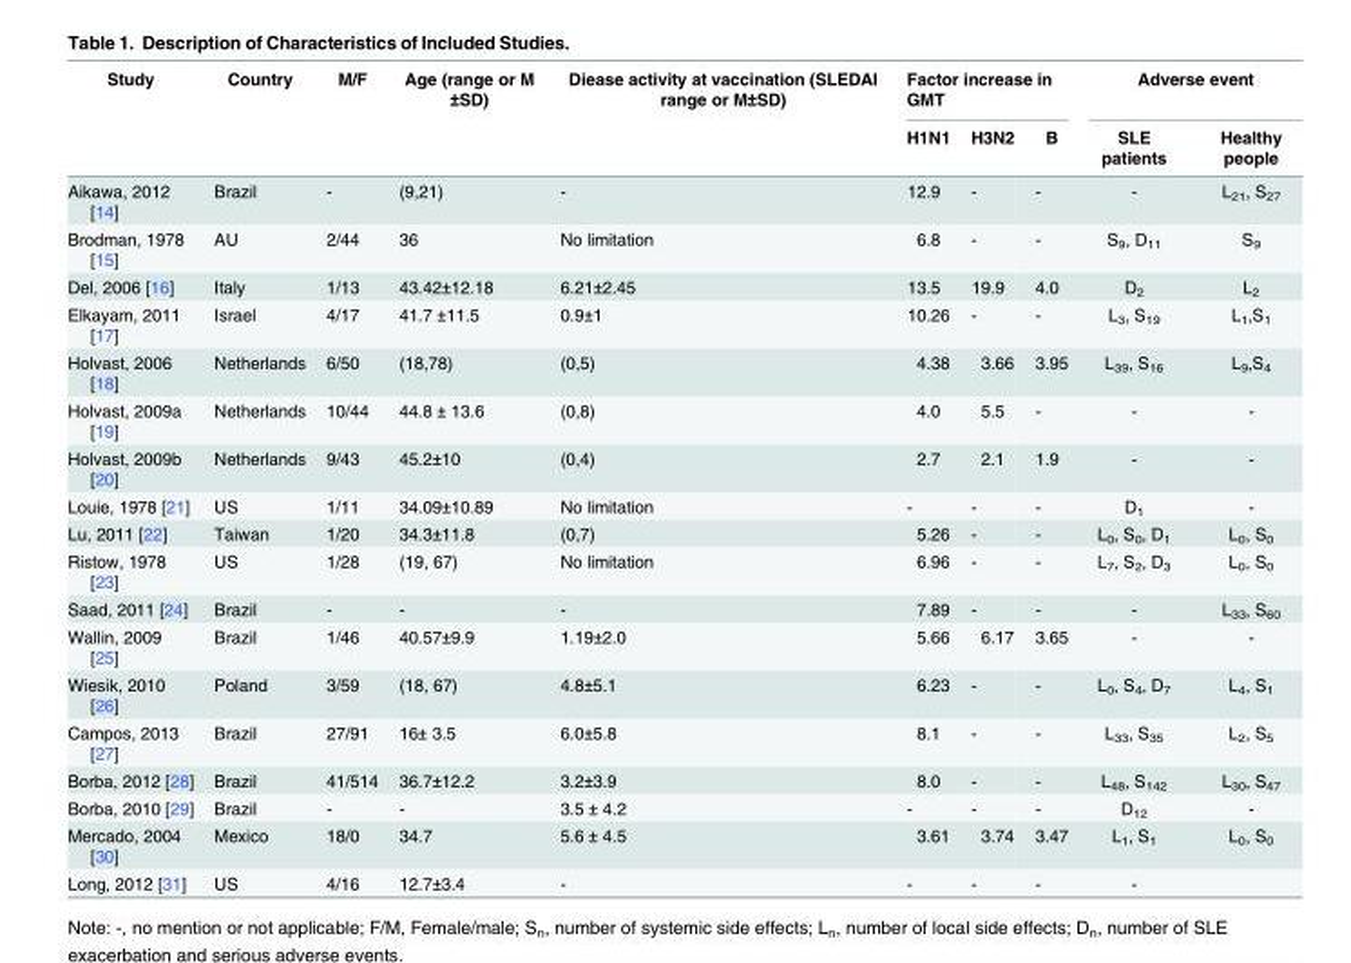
<table><thead><tr><td rowspan="2">Study</td><td rowspan="2">Country</td><td rowspan="2">M/F</td><td rowspan="2">Age (range or M ±SD)</td><td rowspan="2">Diease activity at vaccination (SLEDAI range or M±SD)</td><td colspan="3">Factor increase in GMT</td><td colspan="2">Adverse event</td></tr><tr><td>H1N1</td><td>H3N2</td><td>B</td><td>SLE patients</td><td>Healthy people</td></tr></thead><tbody><tr><td>Aikawa, 2012 [14]</td><td>Brazil</td><td>-</td><td>(9,21)</td><td>-</td><td>12.9</td><td>-</td><td>-</td><td>-</td><td>L<sub>21</sub>, S<sub>27</sub></td></tr><tr><td>Brodman, 1978 [15]</td><td>AU</td><td>2/44</td><td>36</td><td>No limitation</td><td>6.8</td><td>-</td><td>-</td><td>S<sub>9</sub>, D<sub>11</sub></td><td>S<sub>9</sub></td></tr><tr><td>Del, 2006 [16]</td><td>Italy</td><td>1/13</td><td>43.42±12.18</td><td>6.21±2.45</td><td>13.5</td><td>19.9</td><td>4.0</td><td>D<sub>2</sub></td><td>L<sub>2</sub></td></tr><tr><td>Elkayam, 2011 [17]</td><td>Israel</td><td>4/17</td><td>41.7 ±11.5</td><td>0.9±1</td><td>10.26</td><td>-</td><td>-</td><td>L<sub>3</sub>, S<sub>19</sub></td><td>L<sub>1</sub>,S<sub>1</sub></td></tr><tr><td>Holvast, 2006 [18]</td><td>Netherlands</td><td>6/50</td><td>(18,78)</td><td>(0,5)</td><td>4.38</td><td>3.66</td><td>3.95</td><td>L<sub>39</sub>, S<sub>16</sub></td><td>L<sub>9</sub>,S<sub>4</sub></td></tr><tr><td>Holvast, 2009a [19]</td><td>Netherlands</td><td>10/44</td><td>44.8 ± 13.6</td><td>(0,8)</td><td>4.0</td><td>5.5</td><td>-</td><td>-</td><td>-</td></tr><tr><td>Holvast, 2009b [20]</td><td>Netherlands</td><td>9/43</td><td>45.2±10</td><td>(0,4)</td><td>2.7</td><td>2.1</td><td>1.9</td><td>-</td><td>-</td></tr><tr><td>Louie, 1978 [21]</td><td>US</td><td>1/11</td><td>34.09±10.89</td><td>No limitation</td><td>-</td><td>-</td><td>-</td><td>D<sub>1</sub></td><td>-</td></tr><tr><td>Lu, 2011 [22]</td><td>Taiwan</td><td>1/20</td><td>34.3±11.8</td><td>(0,7)</td><td>5.26</td><td>-</td><td>-</td><td>L<sub>0</sub>, S<sub>0</sub>, D<sub>1</sub></td><td>L<sub>0</sub>, S<sub>0</sub></td></tr><tr><td>Ristow, 1978 [23]</td><td>US</td><td>1/28</td><td>(19, 67)</td><td>No limitation</td><td>6.96</td><td>-</td><td>-</td><td>L<sub>7</sub>, S<sub>2</sub>, D<sub>3</sub></td><td>L<sub>0</sub>, S<sub>0</sub></td></tr><tr><td>Saad, 2011 [24]</td><td>Brazil</td><td>-</td><td>-</td><td>-</td><td>7.89</td><td>-</td><td>-</td><td>-</td><td>L<sub>33</sub>, S<sub>60</sub></td></tr><tr><td>Wallin, 2009 [25]</td><td>Brazil</td><td>1/46</td><td>40.57±9.9</td><td>1.19±2.0</td><td>5.66</td><td>6.17</td><td>3.65</td><td>-</td><td>-</td></tr><tr><td>Wiesik, 2010 [26]</td><td>Poland</td><td>3/59</td><td>(18, 67)</td><td>4.8±5.1</td><td>6.23</td><td>-</td><td>-</td><td>L<sub>0</sub>, S<sub>4</sub>, D<sub>7</sub></td><td>L<sub>4</sub>, S<sub>1</sub></td></tr><tr><td>Campos, 2013 [27]</td><td>Brazil</td><td>27/91</td><td>16± 3.5</td><td>6.0±5.8</td><td>8.1</td><td>-</td><td>-</td><td>L<sub>33</sub>, S<sub>35</sub></td><td>L<sub>2</sub>, S<sub>5</sub></td></tr><tr><td>Borba, 2012 [28]</td><td>Brazil</td><td>41/514</td><td>36.7±12.2</td><td>3.2±3.9</td><td>8.0</td><td>-</td><td>-</td><td>L<sub>48</sub>, S<sub>142</sub></td><td>L<sub>30</sub>, S<sub>47</sub></td></tr><tr><td>Borba, 2010 [29]</td><td>Brazil</td><td>-</td><td>-</td><td>3.5 ± 4.2</td><td>-</td><td>-</td><td>-</td><td>D<sub>12</sub></td><td>-</td></tr><tr><td>Mercado, 2004 [30]</td><td>Mexico</td><td>18/0</td><td>34.7</td><td>5.6 ± 4.5</td><td>3.61</td><td>3.74</td><td>3.47</td><td>L<sub>1</sub>, S<sub>1</sub></td><td>L<sub>0</sub>, S<sub>0</sub></td></tr><tr><td>Long, 2012 [31]</td><td>US</td><td>4/16</td><td>12.7±3.4</td><td>-</td><td>-</td><td>-</td><td>-</td><td>-</td><td></td></tr></tbody></table>